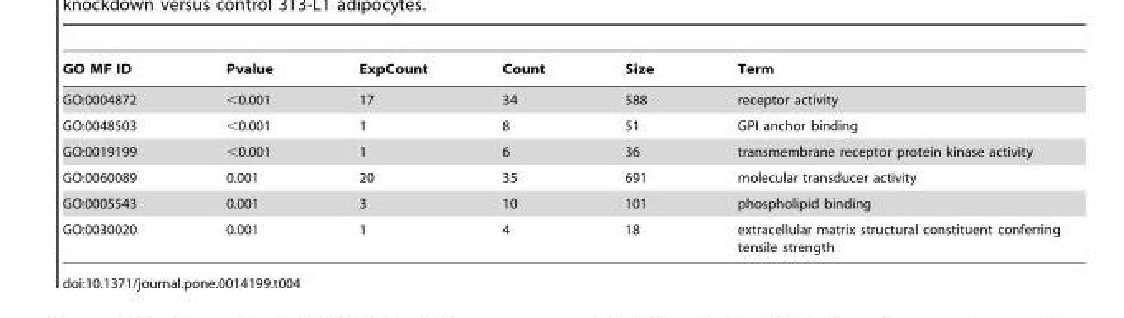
<table><thead><tr><td>GO MF ID</td><td>Pvalue</td><td>ExpCount</td><td>Count</td><td>Size</td><td>Term</td></tr></thead><tbody><tr><td>GO:0004872</td><td>&lt;0.001</td><td>17</td><td>34</td><td>588</td><td>receptor activity</td></tr><tr><td>GO:0048503</td><td>&lt;0.001</td><td>1</td><td>8</td><td>51</td><td>GPI anchor binding</td></tr><tr><td>GO:0019199</td><td>&lt;0.001</td><td>1</td><td>6</td><td>36</td><td>transmembrane receptor protein kinase activity</td></tr><tr><td>GO:0060089</td><td>0.001</td><td>20</td><td>35</td><td>691</td><td>molecular transducer activity</td></tr><tr><td>GO:0005543</td><td>0.001</td><td>3</td><td>10</td><td>101</td><td>phospholipid binding</td></tr><tr><td>GO:0030020</td><td>0.001</td><td>1</td><td>4</td><td>18</td><td>extracellular matrix structural constituent conferring tensile strength</td></tr></tbody></table>